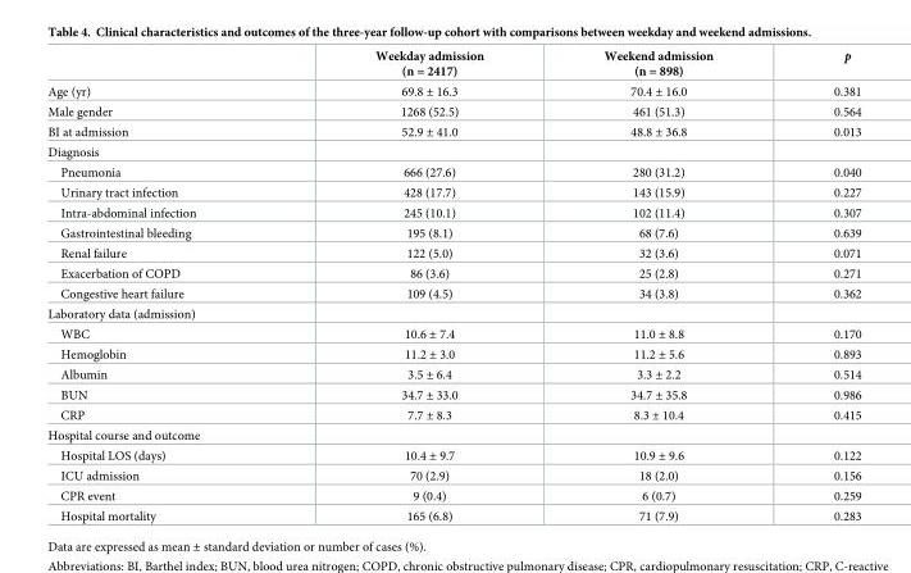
<table><thead><tr><td></td><td>Weekday admission (n = 2417)</td><td>Weekend admission (n = 898)</td><td>p</td></tr></thead><tbody><tr><td>Age (yr)</td><td>69.8 ± 16.3</td><td>70.4 ± 16.0</td><td>0.381</td></tr><tr><td>Male gender</td><td>1268 (52.5)</td><td>461 (51.3)</td><td>0.564</td></tr><tr><td>BI at admission</td><td>52.9 ± 41.0</td><td>48.8 ± 36.8</td><td>0.013</td></tr><tr><td colspan="4">Diagnosis</td></tr><tr><td>Pneumonia</td><td>666 (27.6)</td><td>280 (31.2)</td><td>0.040</td></tr><tr><td>Urinary tract infection</td><td>428 (17.7)</td><td>143 (15.9)</td><td>0.227</td></tr><tr><td>Intra-abdominal infection</td><td>245 (10.1)</td><td>102 (11.4)</td><td>0.307</td></tr><tr><td>Gastrointestinal bleeding</td><td>195 (8.1)</td><td>68 (7.6)</td><td>0.639</td></tr><tr><td>Renal failure</td><td>122 (5.0)</td><td>32 (3.6)</td><td>0.071</td></tr><tr><td>Exacerbation of COPD</td><td>86 (3.6)</td><td>25 (2.8)</td><td>0.271</td></tr><tr><td>Congestive heart failure</td><td>109 (4.5)</td><td>34 (3.8)</td><td>0.362</td></tr><tr><td colspan="4">Laboratory data (admission)</td></tr><tr><td>WBC</td><td>10.6 ± 7.4</td><td>11.0 ± 8.8</td><td>0.170</td></tr><tr><td>Hemoglobin</td><td>11.2 ± 3.0</td><td>11.2 ± 5.6</td><td>0.893</td></tr><tr><td>Albumin</td><td>3.5 ± 6.4</td><td>3.3 ± 2.2</td><td>0.514</td></tr><tr><td>BUN</td><td>34.7 ± 33.0</td><td>34.7 ± 35.8</td><td>0.986</td></tr><tr><td>CRP</td><td>7.7 ± 8.3</td><td>8.3 ± 10.4</td><td>0.415</td></tr><tr><td colspan="4">Hospital course and outcome</td></tr><tr><td>Hospital LOS (days)</td><td>10.4 ± 9.7</td><td>10.9 ± 9.6</td><td>0.122</td></tr><tr><td>ICU admission</td><td>70 (2.9)</td><td>18 (2.0)</td><td>0.156</td></tr><tr><td>CPR event</td><td>9 (0.4)</td><td>6 (0.7)</td><td>0.259</td></tr><tr><td>Hospital mortality</td><td>165 (6.8)</td><td>71 (7.9)</td><td>0.283</td></tr></tbody></table>